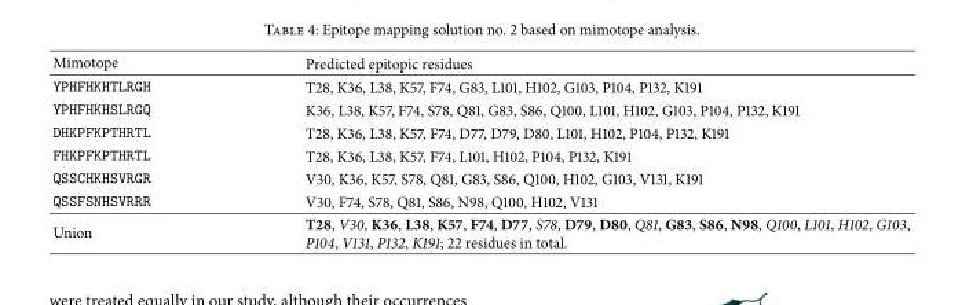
<table><thead><tr><td>Mimotope</td><td>Predicted epitopic residues</td></tr></thead><tbody><tr><td>YPHFHKHTLRGH</td><td>T28, K36, L38, K57, F74, G83, L101, H102, G103, P104, P132, K191</td></tr><tr><td>YPHFHKHSLRGQ</td><td>K36, L38, K57, F74, S78, Q81, G83, S86, Q100, L101, H102, G103, P104, P132, K191</td></tr><tr><td>DHKPFKPTHRTL</td><td>T28, K36, L38, K57, F74, D77, D79, D80, L101, H102, P104, P132, K191</td></tr><tr><td>FHKPFKPTHRTL</td><td>T28, K36, L38, K57, F74, L101, H102, P104, P132, K191</td></tr><tr><td>QSSCHKHSVRGR</td><td>V30, K36, K57, S78, Q81, G83, S86, Q100, H102, G103, V131, K191</td></tr><tr><td>QSSFSNHSVRRR</td><td>V30, F74, S78, Q81, S86, N98, Q100, H102, V131</td></tr><tr><td>Union</td><td>T28, V30, K36, L38, K57, F74, D77, S78, D79, D80, Q81, G83, S86, N98, Q100, L101, H102, G103, P104, V131, P132, K191; 22 residues in total.</td></tr></tbody></table>